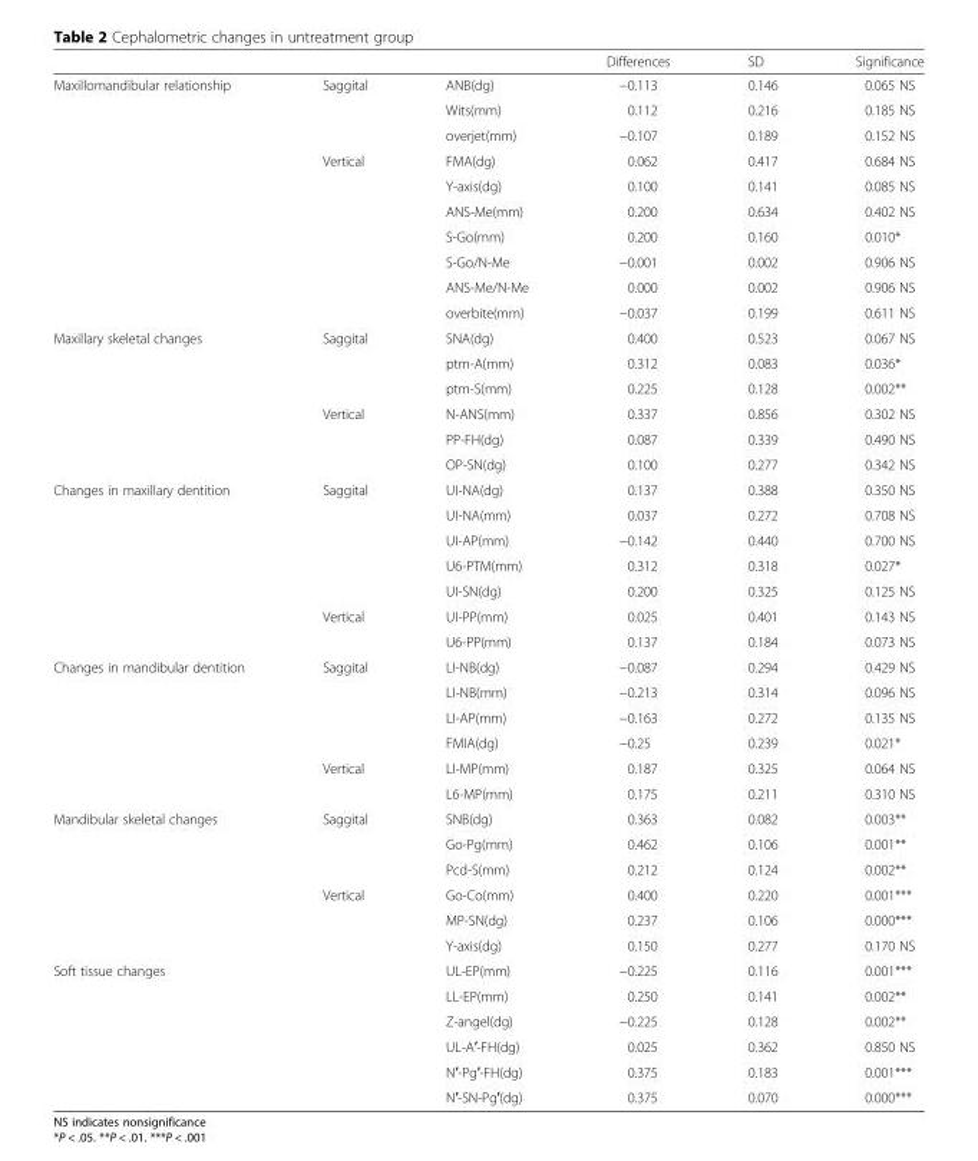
<table><thead><tr><td></td><td></td><td></td><td>Differences</td><td>SD</td><td>Significance</td></tr></thead><tbody><tr><td rowspan="10">Maxillomandibular relationship</td><td>Saggital</td><td>ANB(dg)</td><td>−0.113</td><td>0.146</td><td>0.065 NS</td></tr><tr><td></td><td>Wits(mm)</td><td>0.112</td><td>0.216</td><td>0.185 NS</td></tr><tr><td></td><td>overjet(mm)</td><td>−0.107</td><td>0.189</td><td>0.152 NS</td></tr><tr><td>Vertical</td><td>FMA(dg)</td><td>0.062</td><td>0.417</td><td>0.684 NS</td></tr><tr><td></td><td>Y-axis(dg)</td><td>0.100</td><td>0.141</td><td>0.085 NS</td></tr><tr><td></td><td>ANS-Me(mm)</td><td>0.200</td><td>0.634</td><td>0.402 NS</td></tr><tr><td></td><td>S-Go(mm)</td><td>0.200</td><td>0.160</td><td>0.010*</td></tr><tr><td></td><td>S-Go/N-Me</td><td>−0.001</td><td>0.002</td><td>0.906 NS</td></tr><tr><td></td><td>ANS-Me/N-Me</td><td>0.000</td><td>0.002</td><td>0.906 NS</td></tr><tr><td></td><td>overbite(mm)</td><td>−0.037</td><td>0.199</td><td>0.611 NS</td></tr><tr><td rowspan="6">Maxillary skeletal changes</td><td>Saggital</td><td>SNA(dg)</td><td>0.400</td><td>0.523</td><td>0.067 NS</td></tr><tr><td></td><td>ptm-A(mm)</td><td>0.312</td><td>0.083</td><td>0.036*</td></tr><tr><td></td><td>ptm-S(mm)</td><td>0.225</td><td>0.128</td><td>0.002**</td></tr><tr><td>Vertical</td><td>N-ANS(mm)</td><td>0.337</td><td>0.856</td><td>0.302 NS</td></tr><tr><td></td><td>PP-FH(dg)</td><td>0.087</td><td>0.339</td><td>0.490 NS</td></tr><tr><td></td><td>OP-SN(dg)</td><td>0.100</td><td>0.277</td><td>0.342 NS</td></tr><tr><td rowspan="7">Changes in maxillary dentition</td><td>Saggital</td><td>UI-NA(dg)</td><td>0.137</td><td>0.388</td><td>0.350 NS</td></tr><tr><td></td><td>UI-NA(mm)</td><td>0.037</td><td>0.272</td><td>0.708 NS</td></tr><tr><td></td><td>UI-AP(mm)</td><td>−0.142</td><td>0.440</td><td>0.700 NS</td></tr><tr><td></td><td>U6-PTM(mm)</td><td>0.312</td><td>0.318</td><td>0.027*</td></tr><tr><td></td><td>UI-SN(dg)</td><td>0.200</td><td>0.325</td><td>0.125 NS</td></tr><tr><td>Vertical</td><td>UI-PP(mm)</td><td>0.025</td><td>0.401</td><td>0.143 NS</td></tr><tr><td></td><td>U6-PP(mm)</td><td>0.137</td><td>0.184</td><td>0.073 NS</td></tr><tr><td rowspan="6">Changes in mandibular dentition</td><td>Saggital</td><td>LI-NB(dg)</td><td>−0.087</td><td>0.294</td><td>0.429 NS</td></tr><tr><td></td><td>LI-NB(mm)</td><td>−0.213</td><td>0.314</td><td>0.096 NS</td></tr><tr><td></td><td>LI-AP(mm)</td><td>−0.163</td><td>0.272</td><td>0.135 NS</td></tr><tr><td></td><td>FMIA(dg)</td><td>−0.25</td><td>0.239</td><td>0.021*</td></tr><tr><td>Vertical</td><td>LI-MP(mm)</td><td>0.187</td><td>0.325</td><td>0.064 NS</td></tr><tr><td></td><td>L6-MP(mm)</td><td>0.175</td><td>0.211</td><td>0.310 NS</td></tr><tr><td rowspan="6">Mandibular skeletal changes</td><td>Saggital</td><td>SNB(dg)</td><td>0.363</td><td>0.082</td><td>0.003**</td></tr><tr><td></td><td>Go-Pg(mm)</td><td>0.462</td><td>0.106</td><td>0.001**</td></tr><tr><td></td><td>Pcd-S(mm)</td><td>0.212</td><td>0.124</td><td>0.002**</td></tr><tr><td>Vertical</td><td>Go-Co(mm)</td><td>0.400</td><td>0.220</td><td>0.001***</td></tr><tr><td></td><td>MP-SN(dg)</td><td>0.237</td><td>0.106</td><td>0.000***</td></tr><tr><td></td><td>Y-axis(dg)</td><td>0.150</td><td>0.277</td><td>0.170 NS</td></tr><tr><td rowspan="6">Soft tissue changes</td><td></td><td>UL-EP(mm)</td><td>−0.225</td><td>0.116</td><td>0.001***</td></tr><tr><td></td><td>LL-EP(mm)</td><td>0.250</td><td>0.141</td><td>0.002**</td></tr><tr><td></td><td>Z-angel(dg)</td><td>−0.225</td><td>0.128</td><td>0.002**</td></tr><tr><td></td><td>UL-A′-FH(dg)</td><td>0.025</td><td>0.362</td><td>0.850 NS</td></tr><tr><td></td><td>N′-Pg′-FH(dg)</td><td>0.375</td><td>0.183</td><td>0.001***</td></tr><tr><td></td><td>N′-SN-Pg′(dg)</td><td>0.375</td><td>0.070</td><td>0.000***</td></tr></tbody></table>